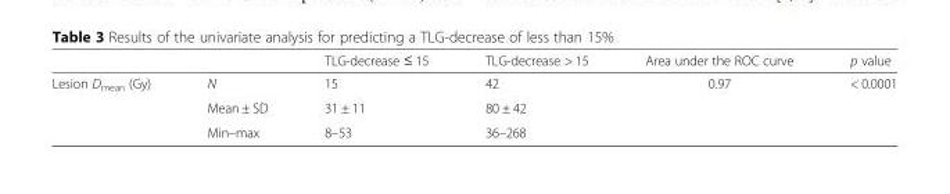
<table><thead><tr><td></td><td></td><td>TLG-decrease ≤ 15</td><td>TLG-decrease &gt; 15</td><td>Area under the ROC curve</td><td>p value</td></tr></thead><tbody><tr><td rowspan="3">Lesion D<sub>mean</sub> (Gy)</td><td>N</td><td>15</td><td>42</td><td rowspan="3">0.97</td><td rowspan="3">&lt; 0.0001</td></tr><tr><td>Mean ± SD</td><td>31 ± 11</td><td>80 ± 42</td></tr><tr><td>Min–max</td><td>8–53</td><td>36–268</td></tr></tbody></table>